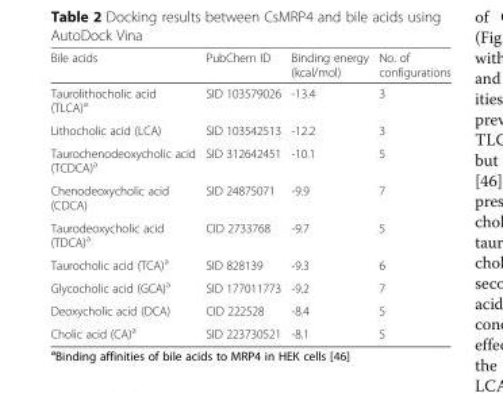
<table><thead><tr><td>Bile acids</td><td>PubChem ID</td><td>Binding energy (kcal/mol)</td><td>No. of configurations</td></tr></thead><tbody><tr><td>Taurolithocholic acid (TLCA)<sup>a</sup></td><td>SID 103579026</td><td>-13.4</td><td>3</td></tr><tr><td>Lithocholic acid (LCA)</td><td>SID 103542513</td><td>-12.2</td><td>3</td></tr><tr><td>Taurochenodeoxycholic acid (TCDCA)<sup>a</sup></td><td>SID 312642451</td><td>-10.1</td><td>5</td></tr><tr><td>Chenodeoxycholic acid (CDCA)</td><td>SID 24875071</td><td>-9.9</td><td>7</td></tr><tr><td>Taurodeoxycholic acid (TDCA)<sup>a</sup></td><td>CID 2733768</td><td>-9.7</td><td>5</td></tr><tr><td>Taurocholic acid (TCA)<sup>a</sup></td><td>SID 828139</td><td>-9.3</td><td>6</td></tr><tr><td>Glycocholic acid (GCA)<sup>a</sup></td><td>SID 177011773</td><td>-9.2</td><td>7</td></tr><tr><td>Deoxycholic acid (DCA)</td><td>CID 222528</td><td>-8.4</td><td>5</td></tr><tr><td>Cholic acid (CA)<sup>a</sup></td><td>SID 223730521</td><td>-8.1</td><td>5</td></tr></tbody></table>